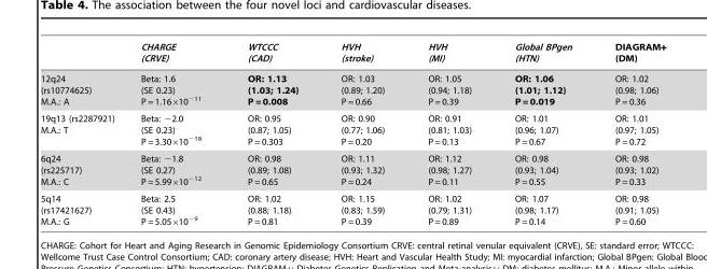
<table><thead><tr><td></td><td>CHARGE (CRVE)</td><td>WTCCC (CAD)</td><td>HVH (stroke)</td><td>HVH (MI)</td><td>Global BPgen (HTN)</td><td>DIAGRAM+ (DM)</td></tr></thead><tbody><tr><td>12q24 (rs10774625) M.A.: A</td><td>Beta: 1.6 (SE 0.23) P = 1.16×10<sup>−11</sup></td><td>OR: 1.13 (1.03; 1.24) P = 0.008</td><td>OR: 1.03 (0.89; 1.20) P = 0.66</td><td>OR: 1.05 (0.94; 1.18) P = 0.39</td><td>OR: 1.06 (1.01; 1.12) P = 0.019</td><td>OR: 1.02 (0.98; 1.06) P = 0.36</td></tr><tr><td>19q13 (rs2287921) M.A.: T</td><td>Beta: −2.0 (SE 0.23) P = 3.30×10<sup>−18</sup></td><td>OR: 0.95 (0.87; 1.05) P = 0.303</td><td>OR: 0.90 (0.77; 1.06) P = 0.20</td><td>OR: 0.91 (0.81; 1.03) P = 0.13</td><td>OR: 1.01 (0.96; 1.07) P = 0.67</td><td>OR: 1.01 (0.97; 1.05) P = 0.72</td></tr><tr><td>6q24 (rs225717) M.A.: C</td><td>Beta: −1.8 (SE 0.27) P = 5.99×10<sup>−12</sup></td><td>OR: 0.98 (0.89; 1.08) P = 0.65</td><td>OR: 1.11 (0.93; 1.32) P = 0.24</td><td>OR: 1.12 (0.98; 1.27) P = 0.11</td><td>OR: 0.98 (0.93; 1.04) P = 0.55</td><td>OR: 0.98 (0.93; 1.02) P = 0.33</td></tr><tr><td>5q14 (rs17421627) M.A.: G</td><td>Beta: 2.5 (SE 0.43) P = 5.05×10<sup>−9</sup></td><td>OR: 1.02 (0.88; 1.18) P = 0.81</td><td>OR: 1.15 (0.83; 1.59) P = 0.39</td><td>OR: 1.02 (0.79; 1.31) P = 0.89</td><td>OR: 1.07 (0.98; 1.17) P = 0.14</td><td>OR: 0.98 (0.91; 1.05) P = 0.60</td></tr></tbody></table>